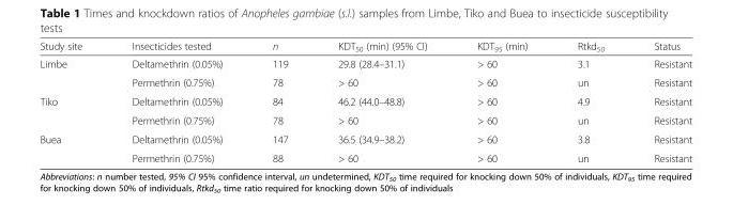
<table><thead><tr><td>Study site</td><td>Insecticides tested</td><td>n</td><td>KDT<sub>50</sub> (min) (95% CI)</td><td>KDT<sub>95</sub> (min)</td><td>Rtkd<sub>50</sub></td><td>Status</td></tr></thead><tbody><tr><td rowspan="2">Limbe</td><td>Deltamethrin (0.05%)</td><td>119</td><td>29.8 (28.4–31.1)</td><td>&gt; 60</td><td>3.1</td><td>Resistant</td></tr><tr><td>Permethrin (0.75%)</td><td>78</td><td>&gt; 60</td><td>&gt; 60</td><td>un</td><td>Resistant</td></tr><tr><td rowspan="2">Tiko</td><td>Deltamethrin (0.05%)</td><td>84</td><td>46.2 (44.0–48.8)</td><td>&gt; 60</td><td>4.9</td><td>Resistant</td></tr><tr><td>Permethrin (0.75%)</td><td>78</td><td>&gt; 60</td><td>&gt; 60</td><td>un</td><td>Resistant</td></tr><tr><td rowspan="2">Buea</td><td>Deltamethrin (0.05%)</td><td>147</td><td>36.5 (34.9–38.2)</td><td>&gt; 60</td><td>3.8</td><td>Resistant</td></tr><tr><td>Permethrin (0.75%)</td><td>88</td><td>&gt; 60</td><td>&gt; 60</td><td>un</td><td>Resistant</td></tr></tbody></table>